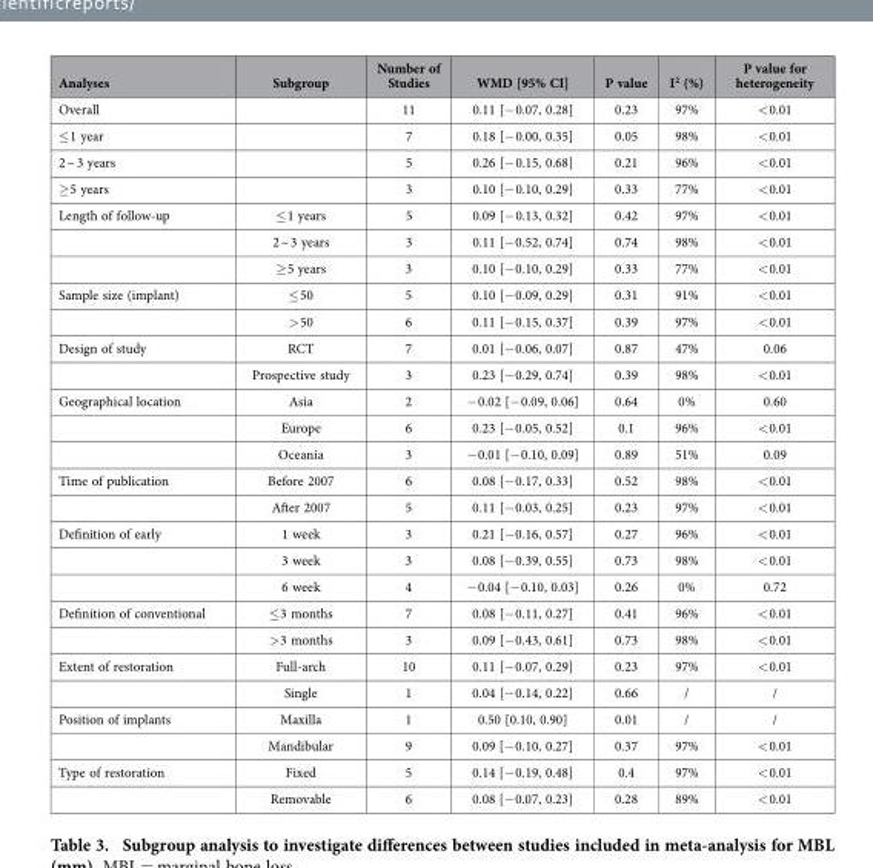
<table><thead><tr><td>Analyses</td><td>Subgroup</td><td>Number of Studies</td><td>WMD [95% CI]</td><td>P value</td><td>I<sup>2</sup> (%)</td><td>P value for heterogeneity</td></tr></thead><tbody><tr><td>Overall</td><td></td><td>11</td><td>0.11 [− 0.07, 0.28]</td><td>0.23</td><td>97%</td><td>&lt; 0.01</td></tr><tr><td>≤ 1 year</td><td></td><td>7</td><td>0.18 [− 0.00, 0.35]</td><td>0.05</td><td>98%</td><td>&lt; 0.01</td></tr><tr><td>2 ~ 3 years</td><td></td><td>5</td><td>0.26 [− 0.15, 0.68]</td><td>0.21</td><td>96%</td><td>&lt; 0.01</td></tr><tr><td>≥ 5 years</td><td></td><td>3</td><td>0.10 [− 0.10, 0.29]</td><td>0.33</td><td>77%</td><td>&lt; 0.01</td></tr><tr><td rowspan="3">Length of follow-up</td><td>≤ 1 years</td><td>5</td><td>0.09 [− 0.13, 0.32]</td><td>0.42</td><td>97%</td><td>&lt; 0.01</td></tr><tr><td>2 ~ 3 years</td><td>3</td><td>0.11 [− 0.52, 0.74]</td><td>0.74</td><td>98%</td><td>&lt; 0.01</td></tr><tr><td>≥ 5 years</td><td>3</td><td>0.10 [− 0.10, 0.29]</td><td>0.33</td><td>77%</td><td>&lt; 0.01</td></tr><tr><td rowspan="2">Sample size (implant)</td><td>≤ 50</td><td>5</td><td>0.10 [− 0.09, 0.29]</td><td>0.31</td><td>91%</td><td>&lt; 0.01</td></tr><tr><td>&gt; 50</td><td>6</td><td>0.11 [− 0.15, 0.37]</td><td>0.39</td><td>97%</td><td>&lt; 0.01</td></tr><tr><td rowspan="2">Design of study</td><td>RCT</td><td>7</td><td>0.01 [− 0.06, 0.07]</td><td>0.87</td><td>47%</td><td>0.06</td></tr><tr><td>Prospective study</td><td>3</td><td>0.23 [− 0.29, 0.74]</td><td>0.39</td><td>98%</td><td>&lt; 0.01</td></tr><tr><td rowspan="3">Geographical location</td><td>Asia</td><td>2</td><td>− 0.02 [− 0.09, 0.06]</td><td>0.64</td><td>0%</td><td>0.60</td></tr><tr><td>Europe</td><td>6</td><td>0.23 [− 0.05, 0.52]</td><td>0.1</td><td>96%</td><td>&lt; 0.01</td></tr><tr><td>Oceania</td><td>3</td><td>− 0.01 [− 0.10, 0.09]</td><td>0.89</td><td>51%</td><td>0.09</td></tr><tr><td rowspan="2">Time of publication</td><td>Before 2007</td><td>6</td><td>0.08 [− 0.17, 0.33]</td><td>0.52</td><td>98%</td><td>&lt; 0.01</td></tr><tr><td>After 2007</td><td>5</td><td>0.11 [− 0.03, 0.25]</td><td>0.23</td><td>97%</td><td>&lt; 0.01</td></tr><tr><td rowspan="3">Definition of early</td><td>1 week</td><td>3</td><td>0.21 [− 0.16, 0.57]</td><td>0.27</td><td>96%</td><td>&lt; 0.01</td></tr><tr><td>3 week</td><td>3</td><td>0.08 [− 0.39, 0.55]</td><td>0.73</td><td>98%</td><td>&lt; 0.01</td></tr><tr><td>6 week</td><td>4</td><td>− 0.04 [− 0.10, 0.03]</td><td>0.26</td><td>0%</td><td>0.72</td></tr><tr><td rowspan="2">Definition of conventional</td><td>≤ 3 months</td><td>7</td><td>0.08 [− 0.11, 0.27]</td><td>0.41</td><td>96%</td><td>&lt; 0.01</td></tr><tr><td>&gt; 3 months</td><td>3</td><td>0.09 [− 0.43, 0.61]</td><td>0.73</td><td>98%</td><td>&lt; 0.01</td></tr><tr><td rowspan="2">Extent of restoration</td><td>Full-arch</td><td>10</td><td>0.11 [− 0.07, 0.29]</td><td>0.23</td><td>97%</td><td>&lt; 0.01</td></tr><tr><td>Single</td><td>1</td><td>0.04 [− 0.14, 0.22]</td><td>0.66</td><td>/</td><td>/</td></tr><tr><td rowspan="2">Position of implants</td><td>Maxilla</td><td>1</td><td>0.50 [0.10, 0.90]</td><td>0.01</td><td>/</td><td>/</td></tr><tr><td>Mandibular</td><td>9</td><td>0.09 [− 0.10, 0.27]</td><td>0.37</td><td>97%</td><td>&lt; 0.01</td></tr><tr><td rowspan="2">Type of restoration</td><td>Fixed</td><td>5</td><td>0.14 [− 0.19, 0.48]</td><td>0.4</td><td>97%</td><td>&lt; 0.01</td></tr><tr><td>Removable</td><td>6</td><td>0.08 [− 0.07, 0.23]</td><td>0.28</td><td>89%</td><td>&lt; 0.01</td></tr></tbody></table>